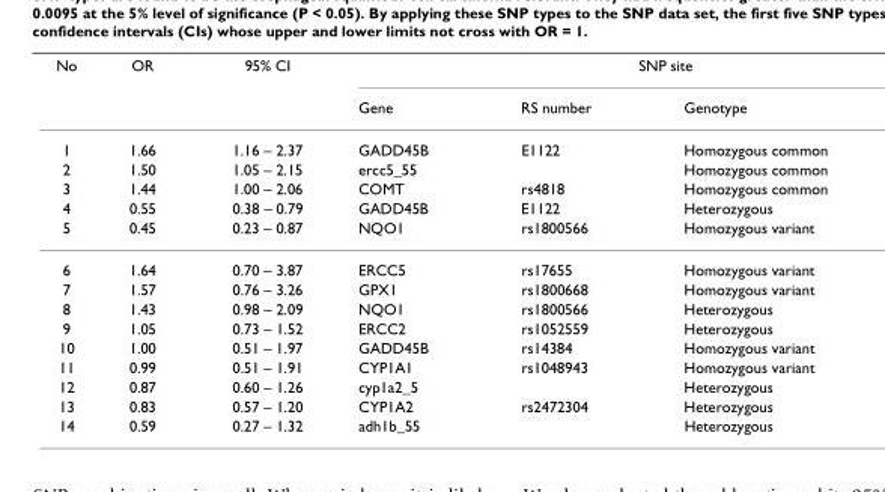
<table><thead><tr><td rowspan="2">No</td><td rowspan="2">OR</td><td rowspan="2">95% CI</td><td colspan="3">SNP site</td></tr><tr><td>Gene</td><td>RS number</td><td>Genotype</td></tr></thead><tbody><tr><td>1</td><td>1.66</td><td>1.16 – 2.37</td><td>GADD45B</td><td>E1122</td><td>Homozygous common</td></tr><tr><td>2</td><td>1.50</td><td>1.05 – 2.15</td><td>ercc5_55</td><td></td><td>Homozygous common</td></tr><tr><td>3</td><td>1.44</td><td>1.00 – 2.06</td><td>COMT</td><td>rs4818</td><td>Homozygous common</td></tr><tr><td>4</td><td>0.55</td><td>0.38 – 0.79</td><td>GADD45B</td><td>E1122</td><td>Heterozygous</td></tr><tr><td>5</td><td>0.45</td><td>0.23 – 0.87</td><td>NQO1</td><td>rs1800566</td><td>Homozygous variant</td></tr><tr><td>6</td><td>1.64</td><td>0.70 – 3.87</td><td>ERCC5</td><td>rs17655</td><td>Homozygous variant</td></tr><tr><td>7</td><td>1.57</td><td>0.76 – 3.26</td><td>GPX1</td><td>rs1800668</td><td>Homozygous variant</td></tr><tr><td>8</td><td>1.43</td><td>0.98 – 2.09</td><td>NQO1</td><td>rs1800566</td><td>Heterozygous</td></tr><tr><td>9</td><td>1.05</td><td>0.73 – 1.52</td><td>ERCC2</td><td>rs1052559</td><td>Heterozygous</td></tr><tr><td>10</td><td>1.00</td><td>0.51 – 1.97</td><td>GADD45B</td><td>rs14384</td><td>Homozygous variant</td></tr><tr><td>11</td><td>0.99</td><td>0.51 – 1.91</td><td>CYP1A1</td><td>rs1048943</td><td>Homozygous variant</td></tr><tr><td>12</td><td>0.87</td><td>0.60 – 1.26</td><td>cyp1a2_5</td><td></td><td>Heterozygous</td></tr><tr><td>13</td><td>0.83</td><td>0.57 – 1.20</td><td>CYP1A2</td><td>rs2472304</td><td>Heterozygous</td></tr><tr><td>14</td><td>0.59</td><td>0.27 – 1.32</td><td>adh1b_55</td><td></td><td>Heterozygous</td></tr></tbody></table>